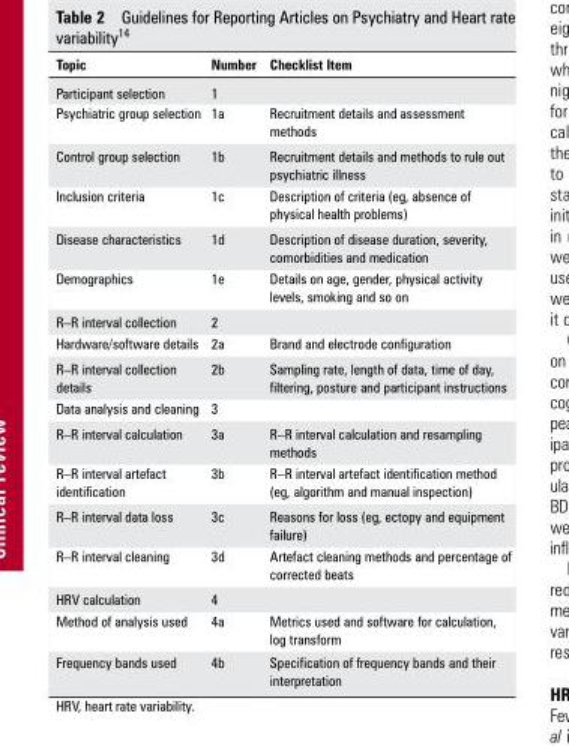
<table><thead><tr><td>topic</td><td>number</td><td>Checklist Item</td></tr></thead><tbody><tr><td>Participant selection</td><td>1</td><td></td></tr><tr><td>Psychiatric group selection</td><td>1a</td><td>Recruitment details and assessment methods</td></tr><tr><td>Control group selection</td><td>1b</td><td>Recruitment details and methods to rule out psychiatric illness</td></tr><tr><td>Inclusion criteria</td><td>1c</td><td>Description of criteria (eg, absence of physical health problems)</td></tr><tr><td>Disease characteristics</td><td>1d</td><td>Description of disease duration, severity, comorbidities and medication</td></tr><tr><td>Demographics</td><td>1e</td><td>Details on age, gender, physical activity levels, smoking and so on</td></tr><tr><td>R–R interval collection</td><td>2</td><td></td></tr><tr><td>Hardware/software details</td><td>2a</td><td>Brand and electrode configuration</td></tr><tr><td>R–R interval collection details</td><td>2b</td><td>Sampling rate, length of data, time of day, filtering, posture and participant instructions</td></tr><tr><td>Data analysis and cleaning</td><td>3</td><td></td></tr><tr><td>R–R interval calculation</td><td>3a</td><td>R–R interval calculation and resampling methods</td></tr><tr><td>R–R interval artefact identification</td><td>3b</td><td>R–R interval artefact identification method (eg, algorithm and manual inspection)</td></tr><tr><td>R–R interval data loss</td><td>3c</td><td>Reasons for loss (eg, ectopy and equipment failure)</td></tr><tr><td>R–R interval cleaning</td><td>3d</td><td>Artefact cleaning methods and percentage of corrected beats</td></tr><tr><td>HRV calculation</td><td>4</td><td></td></tr><tr><td>Method of analysis used</td><td>4a</td><td>Metrics used and software for calculation, log transform</td></tr><tr><td>Frequency bands used</td><td>4b</td><td>Specification of frequency bands and their interpretation</td></tr></tbody></table>